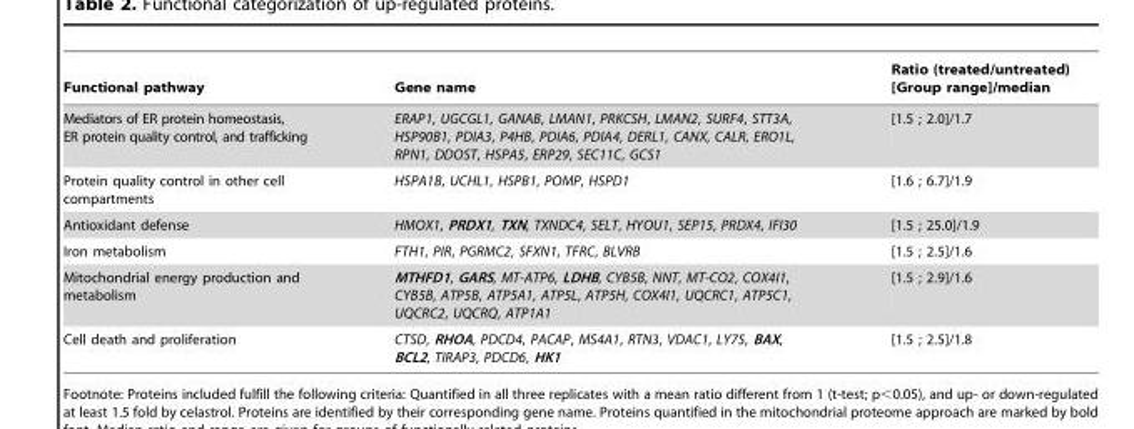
<table><thead><tr><td>Functional pathway</td><td>Gene name</td><td>Ratio (treated/untreated) [Group range]/median</td></tr></thead><tbody><tr><td>Mediators of ER protein homeostasis, ER protein quality control, and trafficking</td><td>ERAP1, UGCGL1, GANAB, LMAN1, PRKCSH, LMAN2, SURF4, STT3A, HSP90B1, PDIA3, P4HB, PDIA6, PDIA4, DERL1, CANX, CALR, ERO1L, RPN1, DDOST, HSPA5, ERP29, SEC11C, GCS1</td><td>[1.5 ; 2.0]/1.7</td></tr><tr><td>Protein quality control in other cell compartments</td><td>HSPA1B, UCHL1, HSPB1, POMP, HSPD1</td><td>[1.6 ; 6.7]/1.9</td></tr><tr><td>Antioxidant defense</td><td>HMOX1, PRDX1, TXN, TXNDC4, SELT, HYOU1, SEP15, PRDX4, IFI30</td><td>[1.5 ; 25.0]/1.9</td></tr><tr><td>Iron metabolism</td><td>FTH1, PIR, PGRMC2, SFXN1, TFRC, BLVRB</td><td>[1.5 ; 2.5]/1.6</td></tr><tr><td>Mitochondrial energy production and metabolism</td><td>MTHFD1, GARS, MT-ATP6, LDHB, CYB5B, NNT, MT-CO2, COX4I1, CYB5B, ATP5B, ATP5A1, ATP5L, ATP5H, COX4I1, UQCRC1, ATP5C1, UQCRC2, UQCRQ, ATP1A1</td><td>[1.5 ; 2.9]/1.6</td></tr><tr><td>Cell death and proliferation</td><td>CTSD, RHOA, PDCD4, PACAP, MS4A1, RTN3, VDAC1, LY75, BAX, BCL2, TIRAP3, PDCD6, HK1</td><td>[1.5 ; 2.5]/1.8</td></tr></tbody></table>